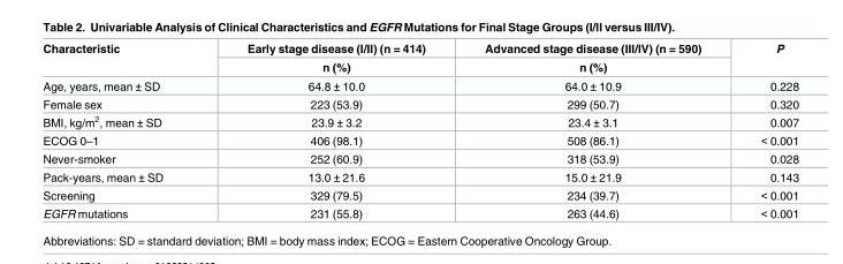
<table><thead><tr><td rowspan="2">Characteristic</td><td rowspan="2">Early stage disease (I/II) (n = 414) n (%)</td><td rowspan="2">Advanced stage disease (III/IV) (n = 590) n (%)</td><td rowspan="2">P</td></tr><tr></tr></thead><tbody><tr><td>Age, years, mean ± SD</td><td>64.8 ± 10.0</td><td>64.0 ± 10.9</td><td>0.228</td></tr><tr><td>Female sex</td><td>223 (53.9)</td><td>299 (50.7)</td><td>0.320</td></tr><tr><td>BMI, kg/m<sup>2</sup>, mean ± SD</td><td>23.9 ± 3.2</td><td>23.4 ± 3.1</td><td>0.007</td></tr><tr><td>ECOG 0–1</td><td>406 (98.1)</td><td>508 (86.1)</td><td>&lt; 0.001</td></tr><tr><td>Never-smoker</td><td>252 (60.9)</td><td>318 (53.9)</td><td>0.028</td></tr><tr><td>Pack-years, mean ± SD</td><td>13.0 ± 21.6</td><td>15.0 ± 21.9</td><td>0.143</td></tr><tr><td>Screening</td><td>329 (79.5)</td><td>234 (39.7)</td><td>&lt; 0.001</td></tr><tr><td>EGFR mutations</td><td>231 (55.8)</td><td>263 (44.6)</td><td>&lt; 0.001</td></tr></tbody></table>